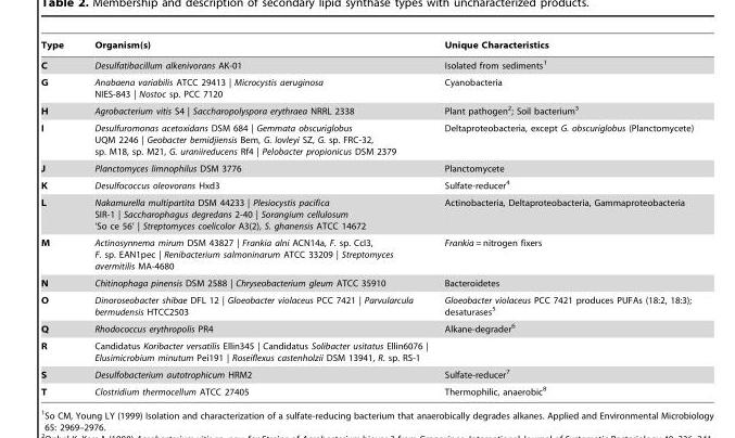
<table><thead><tr><td>Type</td><td>Organism(s)</td><td>Unique Characteristics</td></tr></thead><tbody><tr><td>C</td><td>Desulfatibacillum alkenivorans AK-01</td><td>Isolated from sediments<sup>1</sup></td></tr><tr><td>G</td><td>Anabaena variabilis ATCC 29413 | Microcystis aeruginosa NIES-843 | Nostoc sp. PCC 7120</td><td>Cyanobacteria</td></tr><tr><td>H</td><td>Agrobacterium vitis S4 | Saccharopolyspora erythraea NRRL 2338</td><td>Plant pathogen<sup>2</sup>; Soil bacterium<sup>3</sup></td></tr><tr><td>I</td><td>Desulfuromonas acetoxidans DSM 684 | Gemmata obscuriglobus UQM 2246 | Geobacter bemidjiensis Bem, G. lovleyi SZ, G. sp. FRC-32, sp. M18, sp. M21, G. uraniireducens Rf4 | Pelobacter propionicus DSM 2379</td><td>Deltaproteobacteria, except G. obscuriglobus (Planctomycete)</td></tr><tr><td>J</td><td>Planctomyces limnophilus DSM 3776</td><td>Planctomycete</td></tr><tr><td>K</td><td>Desulfococcus oleovorans Hxd3</td><td>Sulfate-reducer<sup>4</sup></td></tr><tr><td>L</td><td>Nakamurella multipartita DSM 44233 | Plesiocystis pacifica SIR-1 | Saccharophagus degredans 2-40 | Sorangium cellulosum ‘So ce 56’ | Streptomyces coelicolor A3(2), S. ghanensis ATCC 14672</td><td>Actinobacteria, Deltaproteobacteria, Gammaproteobacteria</td></tr><tr><td>M</td><td>Actinosynnema mirum DSM 43827 | Frankia alni ACN14a, F. sp. CcI3, F. sp. EAN1pec | Renibacterium salmoninarum ATCC 33209 | Streptomyces avermitilis MA-4680</td><td>Frankia = nitrogen fixers</td></tr><tr><td>N</td><td>Chitinophaga pinensis DSM 2588 | Chryseobacterium gleum ATCC 35910</td><td>Bacteroidetes</td></tr><tr><td>O</td><td>Dinoroseobacter shibae DFL 12 | Gloeobacter violaceus PCC 7421 | Parvularcula bermudensis HTCC2503</td><td>Gloeobacter violaceus PCC 7421 produces PUFAs (18:2, 18:3); desaturases5</td></tr><tr><td>Q</td><td>Rhodococcus erythropolis PR4</td><td>Alkane-degrader<sup>6</sup></td></tr><tr><td>R</td><td>Candidatus Koribacter versatilis Ellin345 | Candidatus Solibacter usitatus Ellin6076 | Elusimicrobium minutum Pei191 | Roseiflexus castenholzii DSM 13941, R. sp. RS-1</td><td></td></tr><tr><td>S</td><td>Desulfobacterium autotrophicum HRM2</td><td>Sulfate-reducer<sup>7</sup></td></tr><tr><td>T</td><td>Clostridium thermocellum ATCC 27405</td><td>Thermophilic, anaerobic<sup>8</sup></td></tr></tbody></table>